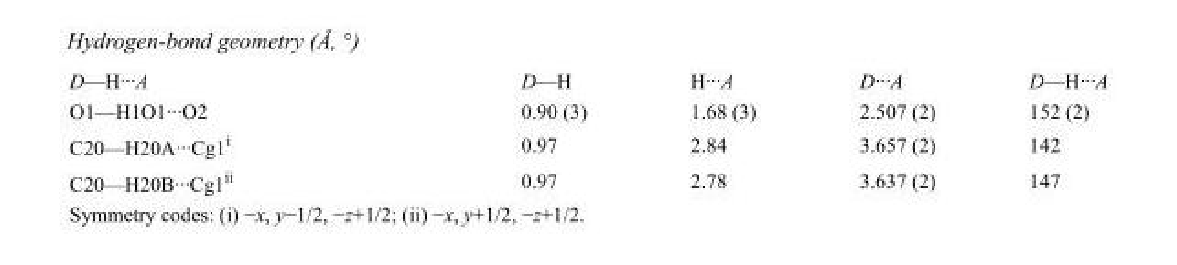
<table><tbody><tr><td>D—H···A</td><td>D—H</td><td>H···A</td><td>D···A</td><td>D—H···A</td></tr><tr><td>O1—H1O1···O2</td><td>0.90 (3)</td><td>1.68 (3)</td><td>2.507 (2)</td><td>152 (2)</td></tr><tr><td>C20—H20A···Cg1<sup>i</sup></td><td>0.97</td><td>2.84</td><td>3.657 (2)</td><td>142</td></tr><tr><td>C20—H20B···Cg1<sup>ii</sup></td><td>0.97</td><td>2.78</td><td>3.637 (2)</td><td>147</td></tr></tbody></table>